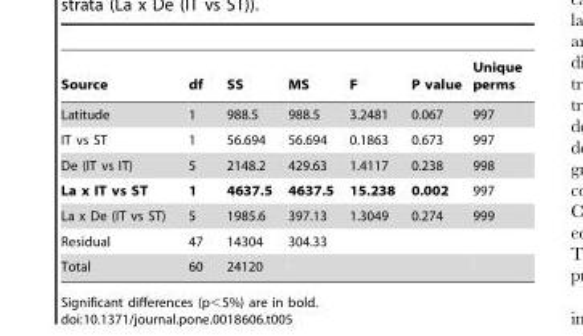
<table><thead><tr><td>Source</td><td>df</td><td>SS</td><td>MS</td><td>F</td><td>P value</td><td>Unique perms</td></tr></thead><tbody><tr><td>Latitude</td><td>1</td><td>988.5</td><td>988.5</td><td>3.2481</td><td>0.067</td><td>997</td></tr><tr><td>IT vs ST</td><td>1</td><td>56.694</td><td>56.694</td><td>0.1863</td><td>0.673</td><td>997</td></tr><tr><td>De (IT vs IT)</td><td>5</td><td>2148.2</td><td>429.63</td><td>1.4117</td><td>0.238</td><td>998</td></tr><tr><td>La x IT vs ST</td><td>1</td><td>4637.5</td><td>4637.5</td><td>15.238</td><td>0.002</td><td>997</td></tr><tr><td>La x De (IT vs ST)</td><td>5</td><td>1985.6</td><td>397.13</td><td>1.3049</td><td>0.274</td><td>999</td></tr><tr><td>Residual</td><td>47</td><td>14304</td><td>304.33</td><td></td><td></td><td></td></tr><tr><td>Total</td><td>60</td><td>24120</td><td></td><td></td><td></td><td></td></tr></tbody></table>